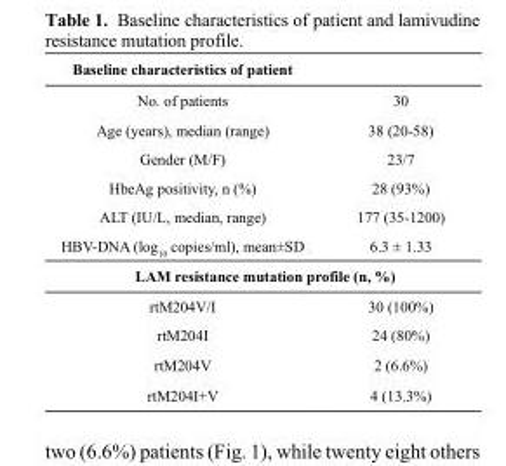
<table><thead><tr><td>Baseline characteristics of patient</td><td></td></tr></thead><tbody><tr><td>No. of patients</td><td>30</td></tr><tr><td>Age (years), median (range)</td><td>38 (20-58)</td></tr><tr><td>Gender (M/F)</td><td>23/7</td></tr><tr><td>HbeAg positivity, n (%)</td><td>28 (93%)</td></tr><tr><td>ALT (IU/L, median, range)</td><td>177 (35-1200)</td></tr><tr><td>HBV-DNA (log<sub>10</sub> copies/ml), mean±SD</td><td>6.3 ± 1.33</td></tr><tr><td colspan="2">LAM resistance mutation profile (n, %)</td></tr><tr><td>rtM204V/I</td><td>30 (100%)</td></tr><tr><td>rtM204I</td><td>24 (80%)</td></tr><tr><td>rtM204V</td><td>2 (6.6%)</td></tr><tr><td>rtM204I+V</td><td>4 (13.3%)</td></tr></tbody></table>